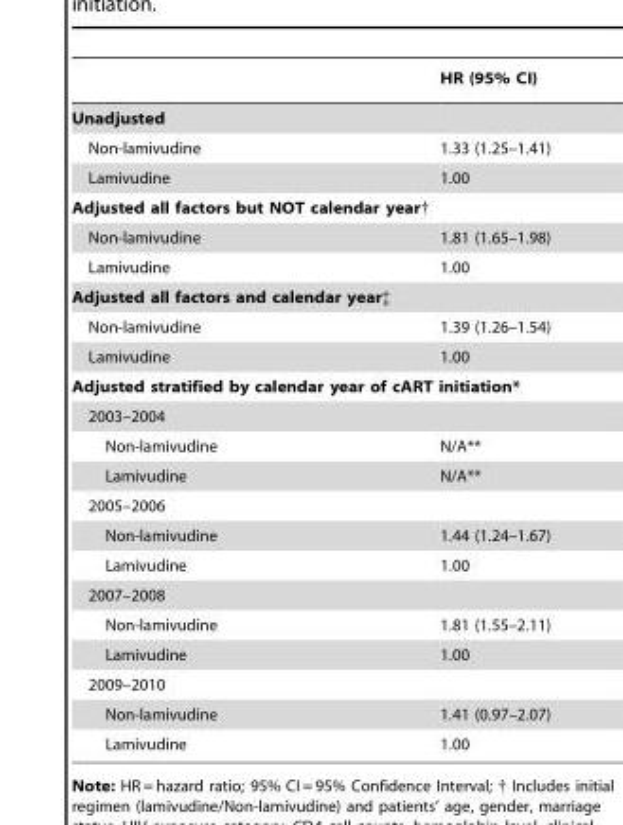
<table><thead><tr><td></td><td>HR (95% CI)</td></tr></thead><tbody><tr><td colspan="2">Unadjusted</td></tr><tr><td>Non-lamivudine</td><td>1.33 (1.25–1.41)</td></tr><tr><td>Lamivudine</td><td>1.00</td></tr><tr><td colspan="2">Adjusted all factors but NOT calendar year†</td></tr><tr><td>Non-lamivudine</td><td>1.81 (1.65–1.98)</td></tr><tr><td>Lamivudine</td><td>1.00</td></tr><tr><td colspan="2">Adjusted all factors and calendar year‡</td></tr><tr><td>Non-lamivudine</td><td>1.39 (1.26–1.54)</td></tr><tr><td>Lamivudine</td><td>1.00</td></tr><tr><td colspan="2">Adjusted stratified by calendar year of cART initiation*</td></tr><tr><td colspan="2">2003–2004</td></tr><tr><td>Non-lamivudine</td><td>N/A**</td></tr><tr><td>Lamivudine</td><td>N/A**</td></tr><tr><td colspan="2">2005–2006</td></tr><tr><td>Non-lamivudine</td><td>1.44 (1.24–1.67)</td></tr><tr><td>Lamivudine</td><td>1.00</td></tr><tr><td colspan="2">2007–2008</td></tr><tr><td>Non-lamivudine</td><td>1.81 (1.55–2.11)</td></tr><tr><td>Lamivudine</td><td>1.00</td></tr><tr><td colspan="2">2009–2010</td></tr><tr><td>Non-lamivudine</td><td>1.41 (0.97–2.07)</td></tr><tr><td>Lamivudine</td><td>1.00</td></tr></tbody></table>